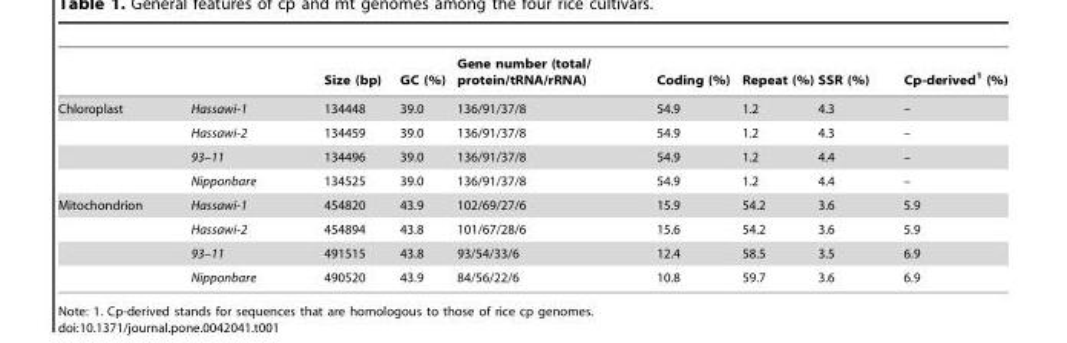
<table><thead><tr><td></td><td></td><td>Size (bp)</td><td>GC (%)</td><td>Gene number (total/ protein/tRNA/rRNA)</td><td>Coding (%)</td><td>Repeat (%)</td><td>SSR (%)</td><td>Cp-derived<sup>1</sup> (%)</td></tr></thead><tbody><tr><td rowspan="4">Chloroplast</td><td>Hassawi-1</td><td>134448</td><td>39.0</td><td>136/91/37/8</td><td>54.9</td><td>1.2</td><td>4.3</td><td>–</td></tr><tr><td>Hassawi-2</td><td>134459</td><td>39.0</td><td>136/91/37/8</td><td>54.9</td><td>1.2</td><td>4.3</td><td>–</td></tr><tr><td>93–11</td><td>134496</td><td>39.0</td><td>136/91/37/8</td><td>54.9</td><td>1.2</td><td>4.4</td><td>–</td></tr><tr><td>Nipponbare</td><td>134525</td><td>39.0</td><td>136/91/37/8</td><td>54.9</td><td>1.2</td><td>4.4</td><td>–</td></tr><tr><td rowspan="4">Mitochondrion</td><td>Hassawi-1</td><td>454820</td><td>43.9</td><td>102/69/27/6</td><td>15.9</td><td>54.2</td><td>3.6</td><td>5.9</td></tr><tr><td>Hassawi-2</td><td>454894</td><td>43.8</td><td>101/67/28/6</td><td>15.6</td><td>54.2</td><td>3.6</td><td>5.9</td></tr><tr><td>93–11</td><td>491515</td><td>43.8</td><td>93/54/33/6</td><td>12.4</td><td>58.5</td><td>3.5</td><td>6.9</td></tr><tr><td>Nipponbare</td><td>490520</td><td>43.9</td><td>84/56/22/6</td><td>10.8</td><td>59.7</td><td>3.6</td><td>6.9</td></tr></tbody></table>